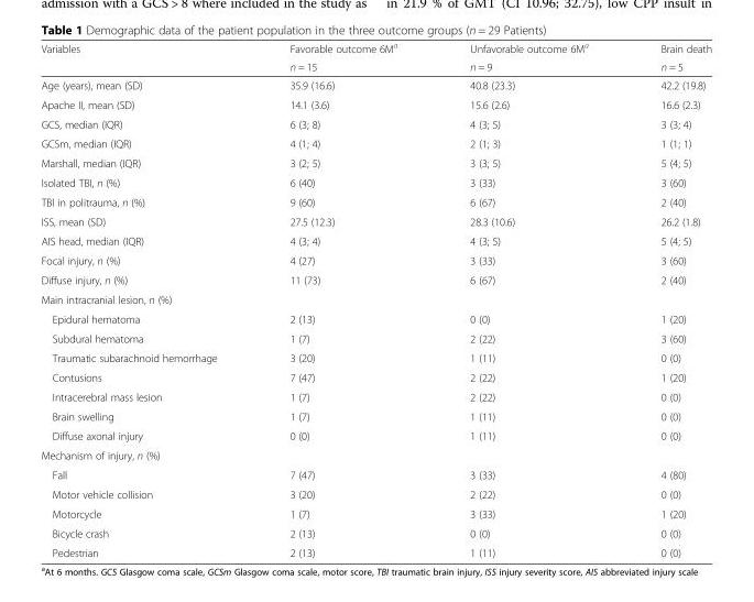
<table><thead><tr><td rowspan="2">Variables</td><td rowspan="2">Favorable outcome 6M<sup>a</sup> n = 15</td><td rowspan="2">Unfavorable outcome 6M<sup>a</sup> n = 9</td><td rowspan="2">Brain death n = 5</td></tr><tr></tr></thead><tbody><tr><td>Age (years), mean (SD)</td><td>35.9 (16.6)</td><td>40.8 (23.3)</td><td>42.2 (19.8)</td></tr><tr><td>Apache II, mean (SD)</td><td>14.1 (3.6)</td><td>15.6 (2.6)</td><td>16.6 (2.3)</td></tr><tr><td>GCS, median (IQR)</td><td>6 (3; 8)</td><td>4 (3; 5)</td><td>3 (3; 4)</td></tr><tr><td>GCSm, median (IQR)</td><td>4 (1; 4)</td><td>2 (1; 3)</td><td>1 (1; 1)</td></tr><tr><td>Marshall, median (IQR)</td><td>3 (2; 5)</td><td>3 (3; 5)</td><td>5 (4; 5)</td></tr><tr><td>Isolated TBI, n (%)</td><td>6 (40)</td><td>3 (33)</td><td>3 (60)</td></tr><tr><td>TBI in politrauma, n (%)</td><td>9 (60)</td><td>6 (67)</td><td>2 (40)</td></tr><tr><td>ISS, mean (SD)</td><td>27.5 (12.3)</td><td>28.3 (10.6)</td><td>26.2 (1.8)</td></tr><tr><td>AIS head, median (IQR)</td><td>4 (3; 4)</td><td>4 (3; 5)</td><td>5 (4; 5)</td></tr><tr><td>Focal injury, n (%)</td><td>4 (27)</td><td>3 (33)</td><td>3 (60)</td></tr><tr><td>Diffuse injury, n (%)</td><td>11 (73)</td><td>6 (67)</td><td>2 (40)</td></tr><tr><td colspan="4">Main intracranial lesion, n (%)</td></tr><tr><td>Epidural hematoma</td><td>2 (13)</td><td>0 (0)</td><td>1 (20)</td></tr><tr><td>Subdural hematoma</td><td>1 (7)</td><td>2 (22)</td><td>3 (60)</td></tr><tr><td>Traumatic subarachnoid hemorrhage</td><td>3 (20)</td><td>1 (11)</td><td>0 (0)</td></tr><tr><td>Contusions</td><td>7 (47)</td><td>2 (22)</td><td>1 (20)</td></tr><tr><td>Intracerebral mass lesion</td><td>1 (7)</td><td>2 (22)</td><td>0 (0)</td></tr><tr><td>Brain swelling</td><td>1 (7)</td><td>1 (11)</td><td>0 (0)</td></tr><tr><td>Diffuse axonal injury</td><td>0 (0)</td><td>1 (11)</td><td>0 (0)</td></tr><tr><td colspan="4">Mechanism of injury, n (%)</td></tr><tr><td>Fall</td><td>7 (47)</td><td>3 (33)</td><td>4 (80)</td></tr><tr><td>Motor vehicle collision</td><td>3 (20)</td><td>2 (22)</td><td>0 (0)</td></tr><tr><td>Motorcycle</td><td>1 (7)</td><td>3 (33)</td><td>1 (20)</td></tr><tr><td>Bicycle crash</td><td>2 (13)</td><td>0 (0)</td><td>0 (0)</td></tr><tr><td>Pedestrian</td><td>2 (13)</td><td>1 (11)</td><td>0 (0)</td></tr></tbody></table>